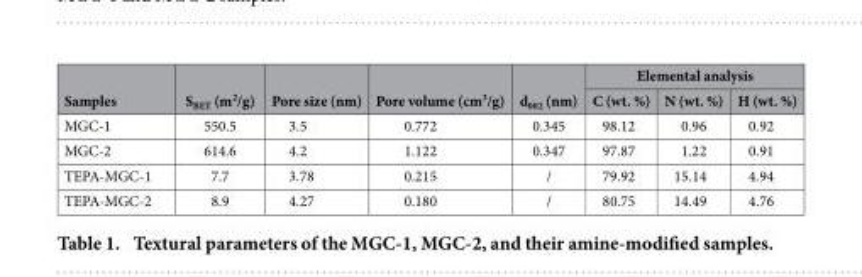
<table><thead><tr><td rowspan="2">Samples</td><td rowspan="2">S<sub>BET</sub> (m<sup>2</sup>/g)</td><td rowspan="2">Pore size (nm)</td><td rowspan="2">Pore volume (cm<sup>3</sup>/g)</td><td rowspan="2">d<sub>002</sub> (nm)</td><td colspan="3">Elemental analysis</td></tr><tr><td>C (wt. %)</td><td>N (wt. %)</td><td>H (wt. %)</td></tr></thead><tbody><tr><td>MGC-1</td><td>550.5</td><td>3.5</td><td>0.772</td><td>0.345</td><td>98.12</td><td>0.96</td><td>0.92</td></tr><tr><td>MGC-2</td><td>614.6</td><td>4.2</td><td>1.122</td><td>0.347</td><td>97.87</td><td>1.22</td><td>0.91</td></tr><tr><td>TEPA-MGC-1</td><td>7.7</td><td>3.78</td><td>0.215</td><td>/</td><td>79.92</td><td>15.14</td><td>4.94</td></tr><tr><td>TEPA-MGC-2</td><td>8.9</td><td>4.27</td><td>0.180</td><td>/</td><td>80.75</td><td>14.49</td><td>4.76</td></tr></tbody></table>